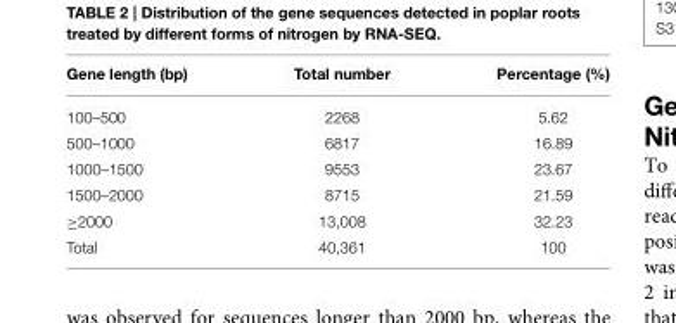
<table><thead><tr><td>Gene length (bp)</td><td>Total number</td><td>Percentage (%)</td></tr></thead><tbody><tr><td>100–500</td><td>2268</td><td>5.62</td></tr><tr><td>500–1000</td><td>6817</td><td>16.89</td></tr><tr><td>1000–1500</td><td>9553</td><td>23.67</td></tr><tr><td>1500–2000</td><td>8715</td><td>21.59</td></tr><tr><td>≥2000</td><td>13,008</td><td>32.23</td></tr><tr><td>Total</td><td>40,361</td><td>100</td></tr></tbody></table>